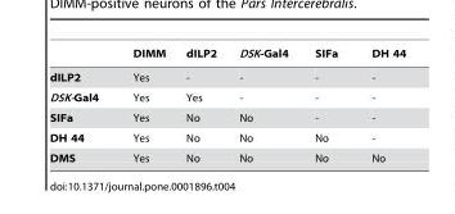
<table><thead><tr><td></td><td>DIMM</td><td>dILP2</td><td>DSK-Gal4</td><td>SIFa</td><td>DH 44</td></tr></thead><tbody><tr><td>dILP2</td><td>Yes</td><td>-</td><td>-</td><td>-</td><td>-</td></tr><tr><td>DSK-Gal4</td><td>Yes</td><td>Yes</td><td>-</td><td>-</td><td>-</td></tr><tr><td>SIFa</td><td>Yes</td><td>No</td><td>No</td><td>-</td><td>-</td></tr><tr><td>DH 44</td><td>Yes</td><td>No</td><td>No</td><td>No</td><td>-</td></tr><tr><td>DMS</td><td>Yes</td><td>No</td><td>No</td><td>No</td><td>No</td></tr></tbody></table>